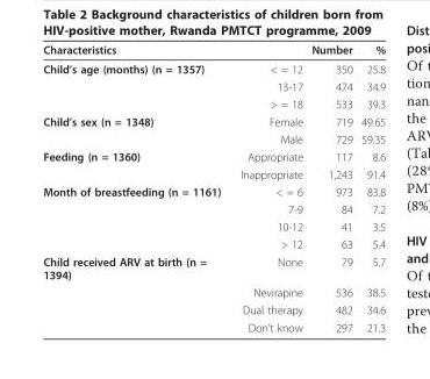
<table><thead><tr><td>Characteristics</td><td></td><td>Number</td><td>%</td></tr></thead><tbody><tr><td rowspan="3">Child’s age (months) (n = 1357)</td><td>&lt; = 12</td><td>350</td><td>25.8</td></tr><tr><td>13-17</td><td>474</td><td>34.9</td></tr><tr><td>&gt; = 18</td><td>533</td><td>39.3</td></tr><tr><td rowspan="2">Child’s sex (n = 1348)</td><td>Female</td><td>719</td><td>49.65</td></tr><tr><td>Male</td><td>729</td><td>59.35</td></tr><tr><td rowspan="2">Feeding (n = 1360)</td><td>Appropriate</td><td>117</td><td>8.6</td></tr><tr><td>Inappropriate</td><td>1,243</td><td>91.4</td></tr><tr><td rowspan="4">Month of breastfeeding (n = 1161)</td><td>&lt; = 6</td><td>973</td><td>83.8</td></tr><tr><td>7-9</td><td>84</td><td>7.2</td></tr><tr><td>10-12</td><td>41</td><td>3.5</td></tr><tr><td>&gt; 12</td><td>63</td><td>5.4</td></tr><tr><td rowspan="4">Child received ARV at birth (n = 1394)</td><td>None</td><td>79</td><td>5.7</td></tr><tr><td>Nevirapine</td><td>536</td><td>38.5</td></tr><tr><td>Dual therapy</td><td>482</td><td>34.6</td></tr><tr><td>Don’t know</td><td>297</td><td>21.3</td></tr></tbody></table>